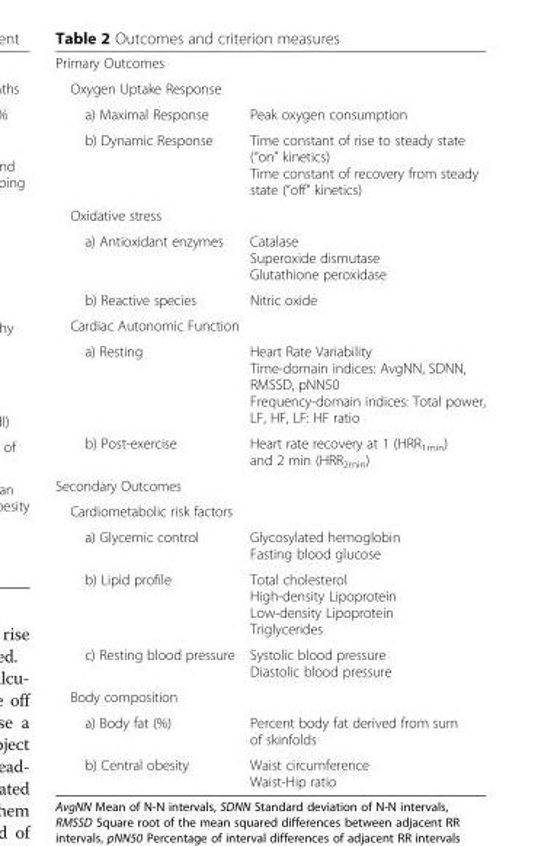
<table><tbody><tr><td colspan="2">Primary Outcomes</td></tr><tr><td colspan="2">Oxygen Uptake Response</td></tr><tr><td>a) Maximal Response</td><td>Peak oxygen consumption</td></tr><tr><td>b) Dynamic Response</td><td>Time constant of rise to steady state (“on” kinetics) Time constant of recovery from steady state (“off” kinetics)</td></tr><tr><td colspan="2">Oxidative stress</td></tr><tr><td>a) Antioxidant enzymes</td><td>Catalase Superoxide dismutase Glutathione peroxidase</td></tr><tr><td>b) Reactive species</td><td>Nitric oxide</td></tr><tr><td colspan="2">Cardiac Autonomic Function</td></tr><tr><td>a) Resting</td><td>Heart Rate Variability Time-domain indices: AvgNN, SDNN, RMSSD, pNN50 Frequency-domain indices: Total power, LF, HF, LF: HF ratio</td></tr><tr><td>b) Post-exercise</td><td>Heart rate recovery at 1 (HRR<sub>1min</sub>) and 2 min (HRR<sub>2min</sub>)</td></tr><tr><td colspan="2">Secondary Outcomes</td></tr><tr><td colspan="2">Cardiometabolic risk factors</td></tr><tr><td>a) Glycemic control</td><td>Glycosylated hemoglobin Fasting blood glucose</td></tr><tr><td>b) Lipid profile</td><td>Total cholesterol High-density Lipoprotein Low-density Lipoprotein Triglycerides</td></tr><tr><td>c) Resting blood pressure</td><td>Systolic blood pressure Diastolic blood pressure</td></tr><tr><td colspan="2">Body composition</td></tr><tr><td>a) Body fat (%)</td><td>Percent body fat derived from sum of skinfolds</td></tr><tr><td>b) Central obesity</td><td>Waist circumference Waist-Hip ratio</td></tr></tbody></table>